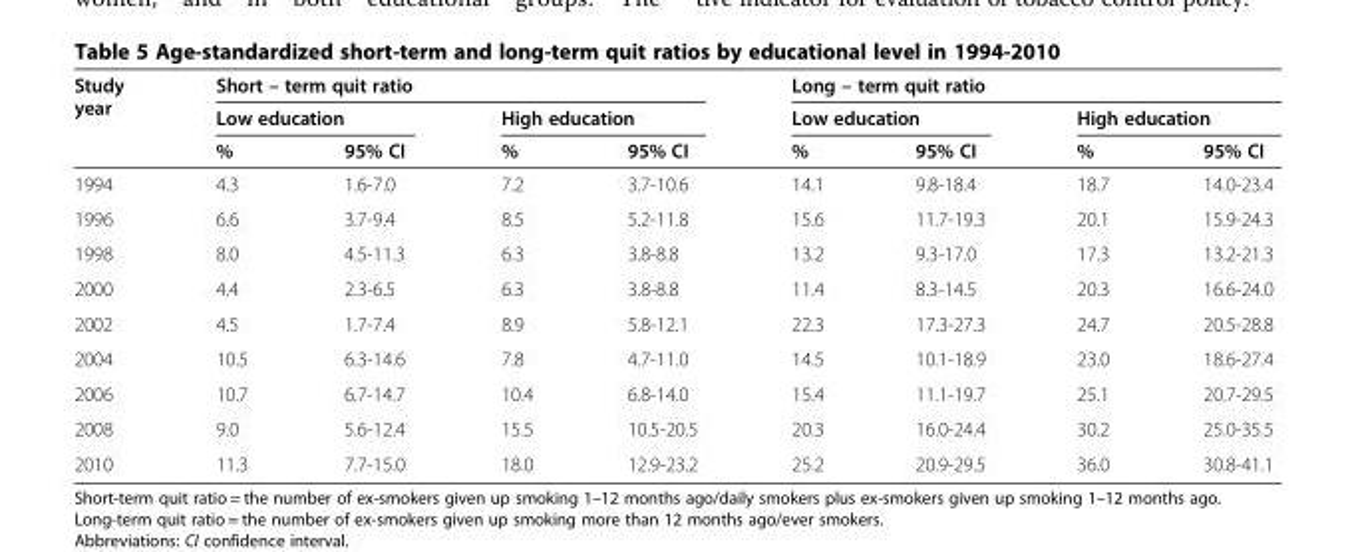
<table><thead><tr><td rowspan="3">Study year</td><td colspan="4">Short – term quit ratio</td><td colspan="4">Long – term quit ratio</td></tr><tr><td colspan="2">Low education</td><td colspan="2">High education</td><td colspan="2">Low education</td><td colspan="2">High education</td></tr><tr><td>%</td><td>95% CI</td><td>%</td><td>95% CI</td><td>%</td><td>95% CI</td><td>%</td><td>95% CI</td></tr></thead><tbody><tr><td>1994</td><td>4.3</td><td>1.6-7.0</td><td>7.2</td><td>3.7-10.6</td><td>14.1</td><td>9.8-18.4</td><td>18.7</td><td>14.0-23.4</td></tr><tr><td>1996</td><td>6.6</td><td>3.7-9.4</td><td>8.5</td><td>5.2-11.8</td><td>15.6</td><td>11.7-19.3</td><td>20.1</td><td>15.9-24.3</td></tr><tr><td>1998</td><td>8.0</td><td>4.5-11.3</td><td>6.3</td><td>3.8-8.8</td><td>13.2</td><td>9.3-17.0</td><td>17.3</td><td>13.2-21.3</td></tr><tr><td>2000</td><td>4.4</td><td>2.3-6.5</td><td>6.3</td><td>3.8-8.8</td><td>11.4</td><td>8.3-14.5</td><td>20.3</td><td>16.6-24.0</td></tr><tr><td>2002</td><td>4.5</td><td>1.7-7.4</td><td>8.9</td><td>5.8-12.1</td><td>22.3</td><td>17.3-27.3</td><td>24.7</td><td>20.5-28.8</td></tr><tr><td>2004</td><td>10.5</td><td>6.3-14.6</td><td>7.8</td><td>4.7-11.0</td><td>14.5</td><td>10.1-18.9</td><td>23.0</td><td>18.6-27.4</td></tr><tr><td>2006</td><td>10.7</td><td>6.7-14.7</td><td>10.4</td><td>6.8-14.0</td><td>15.4</td><td>11.1-19.7</td><td>25.1</td><td>20.7-29.5</td></tr><tr><td>2008</td><td>9.0</td><td>5.6-12.4</td><td>15.5</td><td>10.5-20.5</td><td>20.3</td><td>16.0-24.4</td><td>30.2</td><td>25.0-35.5</td></tr><tr><td>2010</td><td>11.3</td><td>7.7-15.0</td><td>18.0</td><td>12.9-23.2</td><td>25.2</td><td>20.9-29.5</td><td>36.0</td><td>30.8-41.1</td></tr></tbody></table>